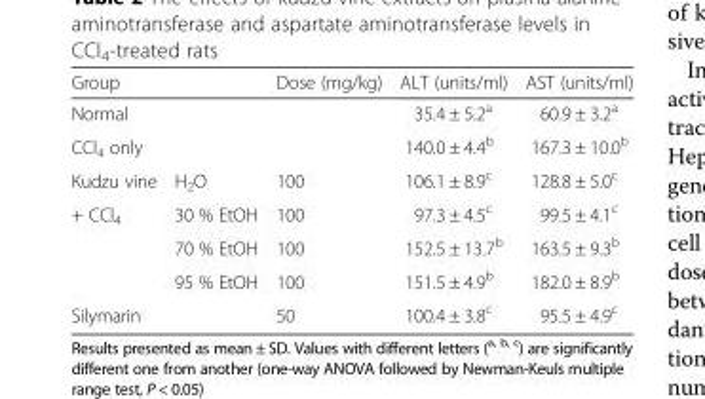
<table><thead><tr><td colspan="2">Group</td><td rowspan="2">Dose (mg/kg)</td><td rowspan="2">ALT (units/ml) 35.4 ± 5.2<sup>a</sup></td><td rowspan="2">AST (units/ml) 60.9 ± 3.2<sup>a</sup></td></tr><tr><td>Normal</td><td></td></tr></thead><tbody><tr><td>CCl<sub>4</sub> only</td><td></td><td></td><td>140.0 ± 4.4<sup>b</sup></td><td>167.3 ± 10.0<sup>b</sup></td></tr><tr><td>Kudzu vine</td><td>H<sub>2</sub>O</td><td>100</td><td>106.1 ± 8.9<sup>c</sup></td><td>128.8 ± 5.0<sup>c</sup></td></tr><tr><td rowspan="3">+ CCl<sub>4</sub></td><td>30 % EtOH</td><td>100</td><td>97.3 ± 4.5<sup>c</sup></td><td>99.5 ± 4.1<sup>c</sup></td></tr><tr><td>70 % EtOH</td><td>100</td><td>152.5 ± 13.7<sup>b</sup></td><td>163.5 ± 9.3<sup>b</sup></td></tr><tr><td>95 % EtOH</td><td>100</td><td>151.5 ± 4.9<sup>b</sup></td><td>182.0 ± 8.9<sup>b</sup></td></tr><tr><td>Silymarin</td><td></td><td>50</td><td>100.4 ± 3.8<sup>c</sup></td><td>95.5 ± 4.9<sup>c</sup></td></tr></tbody></table>